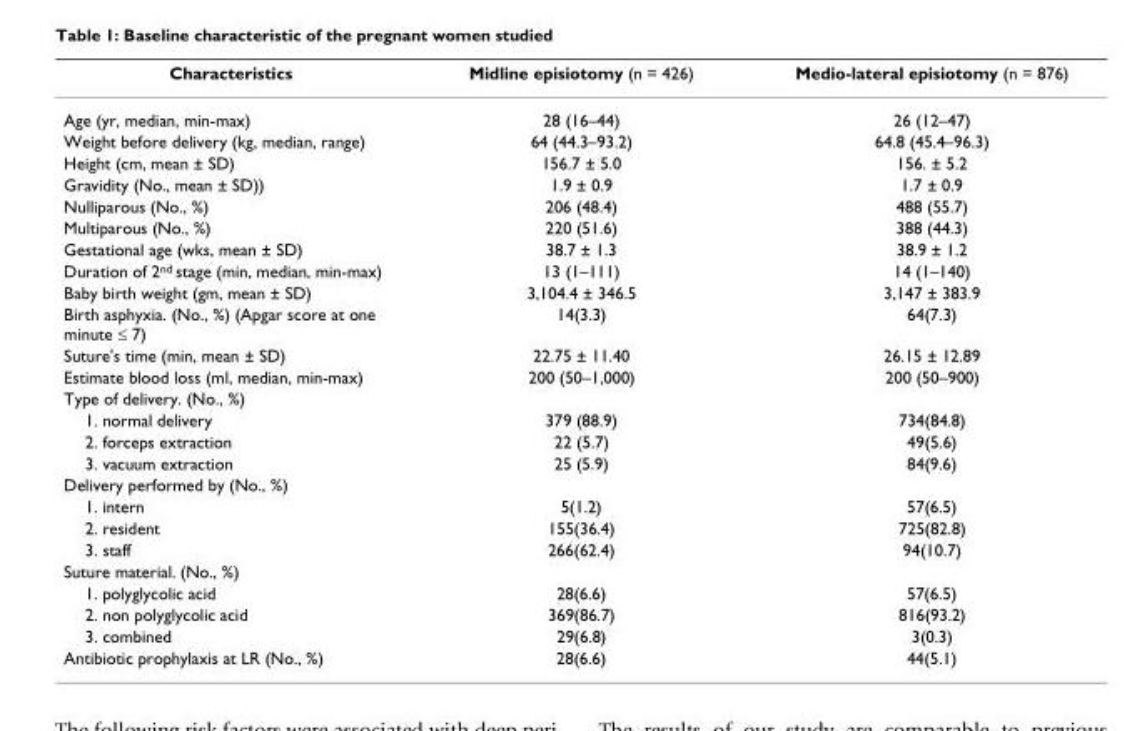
<table><thead><tr><td>Characteristics</td><td>Midline episiotomy (n = 426)</td><td>Medio-lateral episiotomy (n = 876)</td></tr></thead><tbody><tr><td>Age (yr, median, min-max)</td><td>28 (16–44)</td><td>26 (12–47)</td></tr><tr><td>Weight before delivery (kg, median, range)</td><td>64 (44.3–93.2)</td><td>64.8 (45.4–96.3)</td></tr><tr><td>Height (cm, mean ± SD)</td><td>156.7 ± 5.0</td><td>156. ± 5.2</td></tr><tr><td>Gravidity (No., mean ± SD))</td><td>1.9 ± 0.9</td><td>1.7 ± 0.9</td></tr><tr><td>Nulliparous (No., %)</td><td>206 (48.4)</td><td>488 (55.7)</td></tr><tr><td>Multiparous (No., %)</td><td>220 (51.6)</td><td>388 (44.3)</td></tr><tr><td>Gestational age (wks, mean ± SD)</td><td>38.7 ± 1.3</td><td>38.9 ± 1.2</td></tr><tr><td>Duration of 2<sup>nd</sup> stage (min, median, min-max)</td><td>13 (1–111)</td><td>14 (1–140)</td></tr><tr><td>Baby birth weight (gm, mean ± SD)</td><td>3,104.4 ± 346.5</td><td>3,147 ± 383.9</td></tr><tr><td>Birth asphyxia. (No., %) (Apgar score at one minute ≤ 7)</td><td>14(3.3)</td><td>64(7.3)</td></tr><tr><td>Suture&#x27;s time (min, mean ± SD)</td><td>22.75 ± 11.40</td><td>26.15 ± 12.89</td></tr><tr><td>Estimate blood loss (ml, median, min-max)</td><td>200 (50–1,000)</td><td>200 (50–900)</td></tr><tr><td colspan="3">Type of delivery. (No., %)</td></tr><tr><td>1. normal delivery</td><td>379 (88.9)</td><td>734(84.8)</td></tr><tr><td>2. forceps extraction</td><td>22 (5.7)</td><td>49(5.6)</td></tr><tr><td>3. vacuum extraction</td><td>25 (5.9)</td><td>84(9.6)</td></tr><tr><td colspan="3">Delivery performed by (No., %)</td></tr><tr><td>1. intern</td><td>5(1.2)</td><td>57(6.5)</td></tr><tr><td>2. resident</td><td>155(36.4)</td><td>725(82.8)</td></tr><tr><td>3. staff</td><td>266(62.4)</td><td>94(10.7)</td></tr><tr><td colspan="3">Suture material. (No., %)</td></tr><tr><td>1. polyglycolic acid</td><td>28(6.6)</td><td>57(6.5)</td></tr><tr><td>2. non polyglycolic acid</td><td>369(86.7)</td><td>816(93.2)</td></tr><tr><td>3. combined</td><td>29(6.8)</td><td>3(0.3)</td></tr><tr><td>Antibiotic prophylaxis at LR (No., %)</td><td>28(6.6)</td><td>44(5.1)</td></tr></tbody></table>